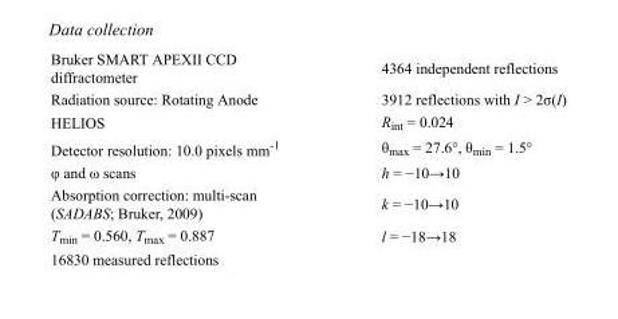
<table><tbody><tr><td>Bruker SMART APEXII CCD diffractometer</td><td>4364 independent reflections</td></tr><tr><td>Radiation source: Rotating Anode</td><td>3912 reflections with I &gt; 2σ(I)</td></tr><tr><td>HELIOS</td><td>R<sub>int</sub> = 0.024</td></tr><tr><td>Detector resolution: 10.0 pixels mm<sup>-1</sup></td><td>θ<sub>max</sub> = 27.6°, θ<sub>min</sub> = 1.5°</td></tr><tr><td>φ and ω scans</td><td>h = −10→10</td></tr><tr><td>Absorption correction: multi-scan (SADABS; Bruker, 2009)</td><td>k = −10→10</td></tr><tr><td>T<sub>min</sub> = 0.560, T<sub>max</sub> = 0.887</td><td>l = −18→18</td></tr><tr><td>16830 measured reflections</td><td></td></tr></tbody></table>